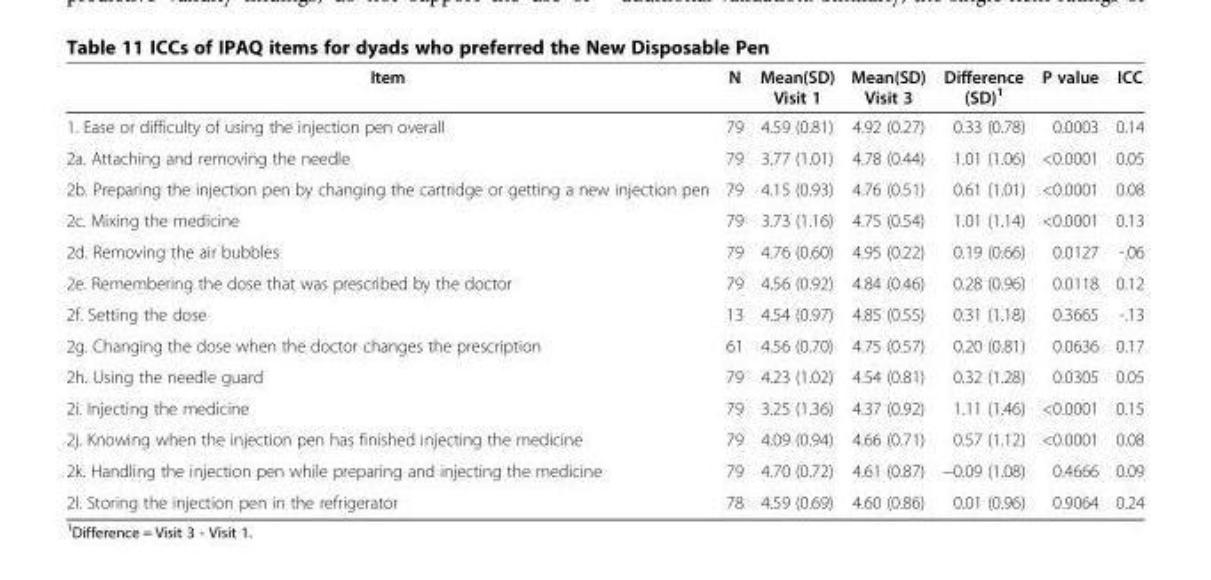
<table><thead><tr><td>Item</td><td>N</td><td>Mean(SD) Visit 1</td><td>Mean(SD) Visit 3</td><td>Difference (SD)<sup>1</sup></td><td>P value</td><td>ICC</td></tr></thead><tbody><tr><td>1. Ease or difficulty of using the injection pen overall</td><td>79</td><td>4.59 (0.81)</td><td>4.92 (0.27)</td><td>0.33 (0.78)</td><td>0.0003</td><td>0.14</td></tr><tr><td>2a. Attaching and removing the needle</td><td>79</td><td>3.77 (1.01)</td><td>4.78 (0.44)</td><td>1.01 (1.06)</td><td>&lt;0.0001</td><td>0.05</td></tr><tr><td>2b. Preparing the injection pen by changing the cartridge or getting a new injection pen</td><td>79</td><td>4.15 (0.93)</td><td>4.76 (0.51)</td><td>0.61 (1.01)</td><td>&lt;0.0001</td><td>0.08</td></tr><tr><td>2c. Mixing the medicine</td><td>79</td><td>3.73 (1.16)</td><td>4.75 (0.54)</td><td>1.01 (1.14)</td><td>&lt;0.0001</td><td>0.13</td></tr><tr><td>2d. Removing the air bubbles</td><td>79</td><td>4.76 (0.60)</td><td>4.95 (0.22)</td><td>0.19 (0.66)</td><td>0.0127</td><td>-.06</td></tr><tr><td>2e. Remembering the dose that was prescribed by the doctor</td><td>79</td><td>4.56 (0.92)</td><td>4.84 (0.46)</td><td>0.28 (0.96)</td><td>0.0118</td><td>0.12</td></tr><tr><td>2f. Setting the dose</td><td>13</td><td>4.54 (0.97)</td><td>4.85 (0.55)</td><td>0.31 (1.18)</td><td>0.3665</td><td>-.13</td></tr><tr><td>2g. Changing the dose when the doctor changes the prescription</td><td>61</td><td>4.56 (0.70)</td><td>4.75 (0.57)</td><td>0.20 (0.81)</td><td>0.0636</td><td>0.17</td></tr><tr><td>2h. Using the needle guard</td><td>79</td><td>4.23 (1.02)</td><td>4.54 (0.81)</td><td>0.32 (1.28)</td><td>0.0305</td><td>0.05</td></tr><tr><td>2i. Injecting the medicine</td><td>79</td><td>3.25 (1.36)</td><td>4.37 (0.92)</td><td>1.11 (1.46)</td><td>&lt;0.0001</td><td>0.15</td></tr><tr><td>2j. Knowing when the injection pen has finished injecting the medicine</td><td>79</td><td>4.09 (0.94)</td><td>4.66 (0.71)</td><td>0.57 (1.12)</td><td>&lt;0.0001</td><td>0.08</td></tr><tr><td>2k. Handling the injection pen while preparing and injecting the medicine</td><td>79</td><td>4.70 (0.72)</td><td>4.61 (0.87)</td><td>−0.09 (1.08)</td><td>0.4666</td><td>0.09</td></tr><tr><td>2l. Storing the injection pen in the refrigerator</td><td>78</td><td>4.59 (0.69)</td><td>4.60 (0.86)</td><td>0.01 (0.96)</td><td>0.9064</td><td>0.24</td></tr></tbody></table>